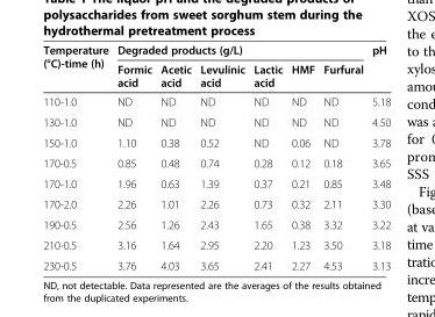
<table><thead><tr><td rowspan="2">Temperature (°C)-time (h)</td><td colspan="6">Degraded products (g/L)</td><td rowspan="2">pH</td></tr><tr><td>Formic acid</td><td>Acetic acid</td><td>Levulinic acid</td><td>Lactic acid</td><td>HMF</td><td>Furfural</td></tr></thead><tbody><tr><td>110-1.0</td><td>ND</td><td>ND</td><td>ND</td><td>ND</td><td>ND</td><td>ND</td><td>5.18</td></tr><tr><td>130-1.0</td><td>ND</td><td>ND</td><td>ND</td><td>ND</td><td>ND</td><td>ND</td><td>4.50</td></tr><tr><td>150-1.0</td><td>1.10</td><td>0.38</td><td>0.52</td><td>ND</td><td>0.06</td><td>ND</td><td>3.78</td></tr><tr><td>170-0.5</td><td>0.85</td><td>0.48</td><td>0.74</td><td>0.28</td><td>0.12</td><td>0.18</td><td>3.65</td></tr><tr><td>170-1.0</td><td>1.96</td><td>0.63</td><td>1.39</td><td>0.37</td><td>0.21</td><td>0.85</td><td>3.48</td></tr><tr><td>170-2.0</td><td>2.26</td><td>1.01</td><td>2.26</td><td>0.73</td><td>0.32</td><td>2.11</td><td>3.30</td></tr><tr><td>190-0.5</td><td>2.56</td><td>1.26</td><td>2.43</td><td>1.65</td><td>0.38</td><td>3.32</td><td>3.22</td></tr><tr><td>210-0.5</td><td>3.16</td><td>1.64</td><td>2.95</td><td>2.20</td><td>1.23</td><td>3.50</td><td>3.18</td></tr><tr><td>230-0.5</td><td>3.76</td><td>4.03</td><td>3.65</td><td>2.41</td><td>2.27</td><td>4.53</td><td>3.13</td></tr></tbody></table>